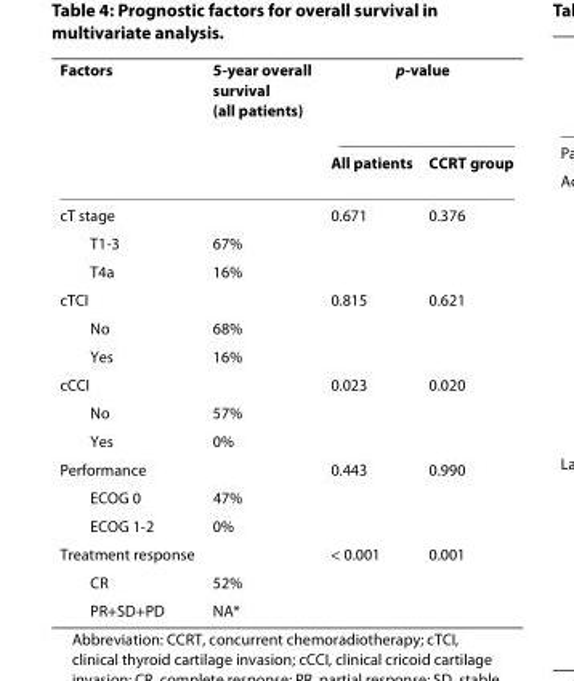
<table><thead><tr><td rowspan="2">Factors</td><td rowspan="2">5-year overall survival (all patients)</td><td colspan="2">p-value</td></tr><tr><td>All patients</td><td>CCRT group</td></tr></thead><tbody><tr><td>cT stage</td><td></td><td>0.671</td><td>0.376</td></tr><tr><td>T1-3</td><td>67%</td><td></td><td></td></tr><tr><td>T4a</td><td>16%</td><td></td><td></td></tr><tr><td>cTCI</td><td></td><td>0.815</td><td>0.621</td></tr><tr><td>No</td><td>68%</td><td></td><td></td></tr><tr><td>Yes</td><td>16%</td><td></td><td></td></tr><tr><td>cCCI</td><td></td><td>0.023</td><td>0.020</td></tr><tr><td>No</td><td>57%</td><td></td><td></td></tr><tr><td>Yes</td><td>0%</td><td></td><td></td></tr><tr><td>Performance</td><td></td><td>0.443</td><td>0.990</td></tr><tr><td>ECOG 0</td><td>47%</td><td></td><td></td></tr><tr><td>ECOG 1-2</td><td>0%</td><td></td><td></td></tr><tr><td>Treatment response</td><td></td><td>&lt; 0.001</td><td>0.001</td></tr><tr><td>CR</td><td>52%</td><td></td><td></td></tr><tr><td>PR+SD+PD</td><td>NA*</td><td></td><td></td></tr></tbody></table>